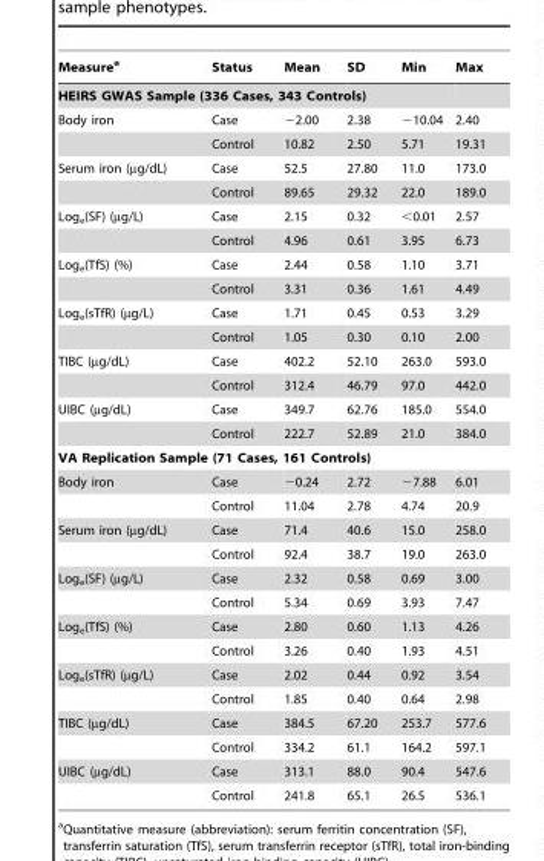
<table><thead><tr><td>Measure<sup>a</sup></td><td>Status</td><td>Mean</td><td>SD</td><td>Min</td><td>Max</td></tr></thead><tbody><tr><td colspan="6">HEIRS GWAS Sample (336 Cases, 343 Controls)</td></tr><tr><td rowspan="2">Body iron</td><td>Case</td><td>−2.00</td><td>2.38</td><td>−10.04</td><td>2.40</td></tr><tr><td>Control</td><td>10.82</td><td>2.50</td><td>5.71</td><td>19.31</td></tr><tr><td rowspan="2">Serum iron (µg/dL)</td><td>Case</td><td>52.5</td><td>27.80</td><td>11.0</td><td>173.0</td></tr><tr><td>Control</td><td>89.65</td><td>29.32</td><td>22.0</td><td>189.0</td></tr><tr><td rowspan="2">Log<sub>e</sub>(SF) (µg/L)</td><td>Case</td><td>2.15</td><td>0.32</td><td>&lt;0.01</td><td>2.57</td></tr><tr><td>Control</td><td>4.96</td><td>0.61</td><td>3.95</td><td>6.73</td></tr><tr><td rowspan="2">Log<sub>e</sub>(TfS) (%)</td><td>Case</td><td>2.44</td><td>0.58</td><td>1.10</td><td>3.71</td></tr><tr><td>Control</td><td>3.31</td><td>0.36</td><td>1.61</td><td>4.49</td></tr><tr><td rowspan="2">Log<sub>e</sub>(sTfR) (µg/L)</td><td>Case</td><td>1.71</td><td>0.45</td><td>0.53</td><td>3.29</td></tr><tr><td>Control</td><td>1.05</td><td>0.30</td><td>0.10</td><td>2.00</td></tr><tr><td rowspan="2">TIBC (µg/dL)</td><td>Case</td><td>402.2</td><td>52.10</td><td>263.0</td><td>593.0</td></tr><tr><td>Control</td><td>312.4</td><td>46.79</td><td>97.0</td><td>442.0</td></tr><tr><td rowspan="2">UIBC (µg/dL)</td><td>Case</td><td>349.7</td><td>62.76</td><td>185.0</td><td>554.0</td></tr><tr><td>Control</td><td>222.7</td><td>52.89</td><td>21.0</td><td>384.0</td></tr><tr><td colspan="6">VA Replication Sample (71 Cases, 161 Controls)</td></tr><tr><td rowspan="2">Body iron</td><td>Case</td><td>−0.24</td><td>2.72</td><td>−7.88</td><td>6.01</td></tr><tr><td>Control</td><td>11.04</td><td>2.78</td><td>4.74</td><td>20.9</td></tr><tr><td rowspan="2">Serum iron (µg/dL)</td><td>Case</td><td>71.4</td><td>40.6</td><td>15.0</td><td>258.0</td></tr><tr><td>Control</td><td>92.4</td><td>38.7</td><td>19.0</td><td>263.0</td></tr><tr><td rowspan="2">Log<sub>e</sub>(SF) (µg/L)</td><td>Case</td><td>2.32</td><td>0.58</td><td>0.69</td><td>3.00</td></tr><tr><td>Control</td><td>5.34</td><td>0.69</td><td>3.93</td><td>7.47</td></tr><tr><td rowspan="2">Log<sub>e</sub>(TfS) (%)</td><td>Case</td><td>2.80</td><td>0.60</td><td>1.13</td><td>4.26</td></tr><tr><td>Control</td><td>3.26</td><td>0.40</td><td>1.93</td><td>4.51</td></tr><tr><td rowspan="2">Log<sub>e</sub>(sTfR) (µg/L)</td><td>Case</td><td>2.02</td><td>0.44</td><td>0.92</td><td>3.54</td></tr><tr><td>Control</td><td>1.85</td><td>0.40</td><td>0.64</td><td>2.98</td></tr><tr><td rowspan="2">TIBC (µg/dL)</td><td>Case</td><td>384.5</td><td>67.20</td><td>253.7</td><td>577.6</td></tr><tr><td>Control</td><td>334.2</td><td>61.1</td><td>164.2</td><td>597.1</td></tr><tr><td rowspan="2">UIBC (µg/dL)</td><td>Case</td><td>313.1</td><td>88.0</td><td>90.4</td><td>547.6</td></tr><tr><td>Control</td><td>241.8</td><td>65.1</td><td>26.5</td><td>536.1</td></tr></tbody></table>